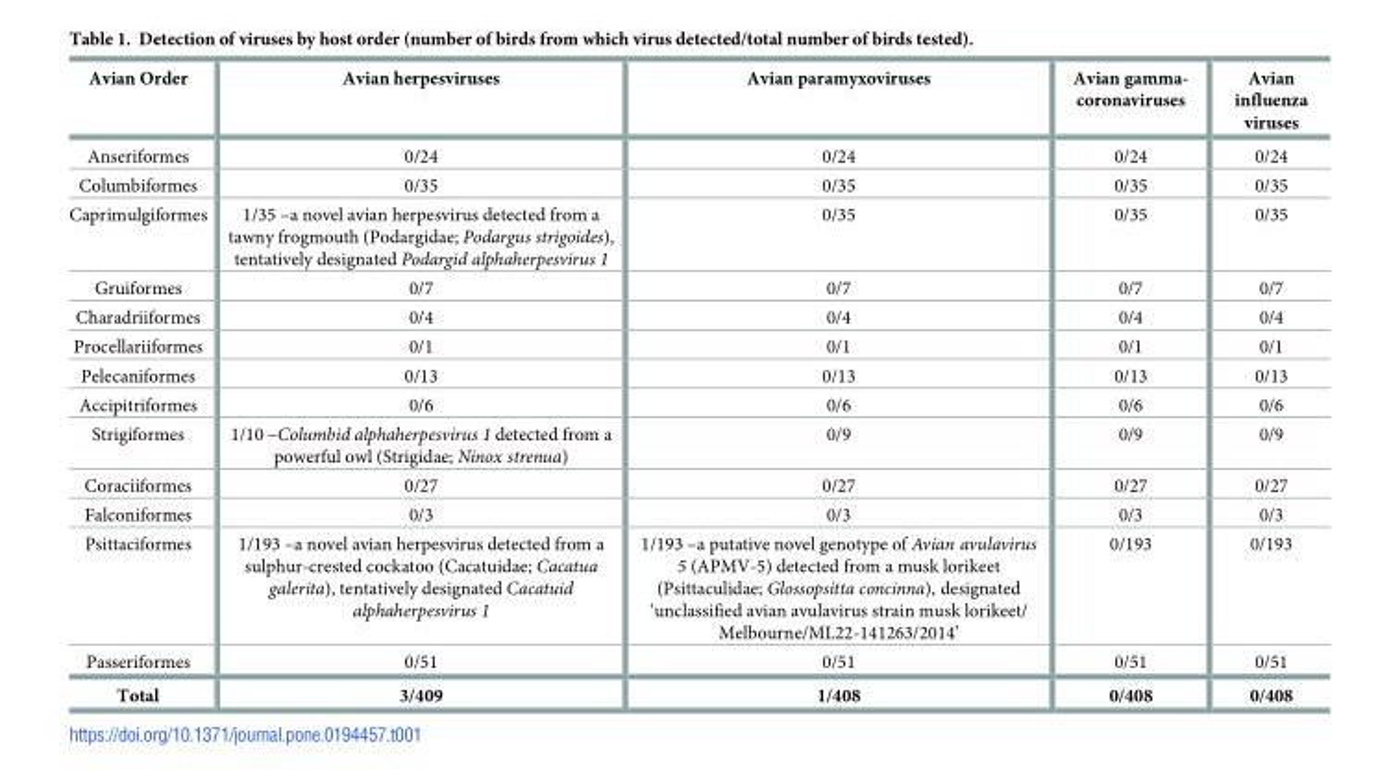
<table><thead><tr><td>Avian Order</td><td>Avian herpesviruses</td><td>Avian paramyxoviruses</td><td>Avian gamma- coronaviruses</td><td>Avian influenza viruses</td></tr></thead><tbody><tr><td>Anseriformes</td><td>0/24</td><td>0/24</td><td>0/24</td><td>0/24</td></tr><tr><td>Columbiformes</td><td>0/35</td><td>0/35</td><td>0/35</td><td>0/35</td></tr><tr><td>Caprimulgiformes</td><td>1/35 –a novel avian herpesvirus detected from a tawny frogmouth (Podargidae; Podargus strigoides), tentatively designated Podargid alphaherpesvirus 1</td><td>0/35</td><td>0/35</td><td>0/35</td></tr><tr><td>Gruiformes</td><td>0/7</td><td>0/7</td><td>0/7</td><td>0/7</td></tr><tr><td>Charadriiformes</td><td>0/4</td><td>0/4</td><td>0/4</td><td>0/4</td></tr><tr><td>Procellariiformes</td><td>0/1</td><td>0/1</td><td>0/1</td><td>0/1</td></tr><tr><td>Pelecaniformes</td><td>0/13</td><td>0/13</td><td>0/13</td><td>0/13</td></tr><tr><td>Accipitriformes</td><td>0/6</td><td>0/6</td><td>0/6</td><td>0/6</td></tr><tr><td>Strigiformes</td><td>1/10 –Columbid alphaherpesvirus 1 detected from a powerful owl (Strigidae; Ninox strenua)</td><td>0/9</td><td>0/9</td><td>0/9</td></tr><tr><td>Coraciiformes</td><td>0/27</td><td>0/27</td><td>0/27</td><td>0/27</td></tr><tr><td>Falconiformes</td><td>0/3</td><td>0/3</td><td>0/3</td><td>0/3</td></tr><tr><td>Psittaciformes</td><td>1/193 –a novel avian herpesvirus detected from a sulphur-crested cockatoo (Cacatuidae; Cacatua galerita), tentatively designated Cacatuid alphaherpesvirus 1</td><td>1/193 –a putative novel genotype of Avian avulavirus 5 (APMV-5) detected from a musk lorikeet (Psittaculidae; Glossopsitta concinna), designated ‘unclassified avian avulavirus strain musk lorikeet/ Melbourne/ML22-141263/2014’</td><td>0/193</td><td>0/193</td></tr><tr><td>Passeriformes</td><td>0/51</td><td>0/51</td><td>0/51</td><td>0/51</td></tr><tr><td>Total</td><td>3/409</td><td>1/408</td><td>0/408</td><td>0/408</td></tr></tbody></table>